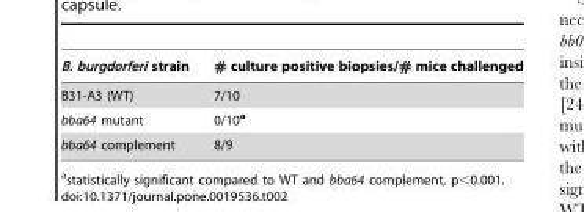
<table><thead><tr><td>B. burgdorferi strain</td><td># culture positive biopsies/# mice challenged</td></tr></thead><tbody><tr><td>B31-A3 (WT)</td><td>7/10</td></tr><tr><td>bba64 mutant</td><td>0/10<sup>a</sup></td></tr><tr><td>bba64 complement</td><td>8/9</td></tr></tbody></table>